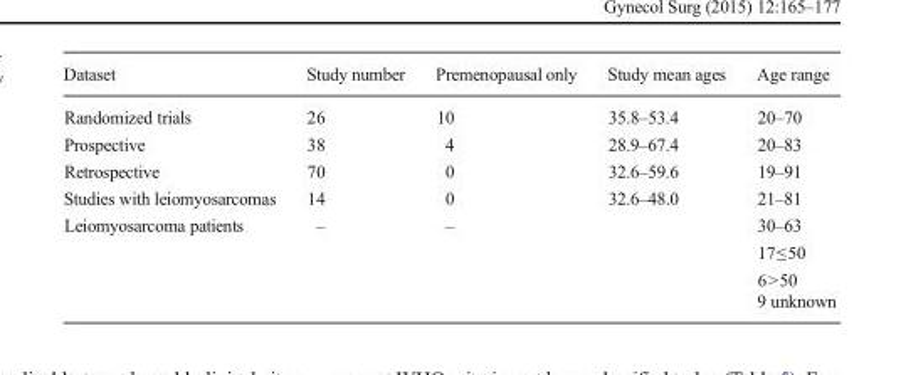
<table><thead><tr><td>Dataset</td><td>Study number</td><td>Premenopausal only</td><td>Study mean ages</td><td>Age range</td></tr></thead><tbody><tr><td>Randomized trials</td><td>26</td><td>10</td><td>35.8–53.4</td><td>20–70</td></tr><tr><td>Prospective</td><td>38</td><td>4</td><td>28.9–67.4</td><td>20–83</td></tr><tr><td>Retrospective</td><td>70</td><td>0</td><td>32.6–59.6</td><td>19–91</td></tr><tr><td>Studies with leiomyosarcomas</td><td>14</td><td>0</td><td>32.6–48.0</td><td>21–81</td></tr><tr><td>Leiomyosarcoma patients</td><td>–</td><td>–</td><td></td><td>30–63 17≤50 6&gt;50 9 unknown</td></tr></tbody></table>